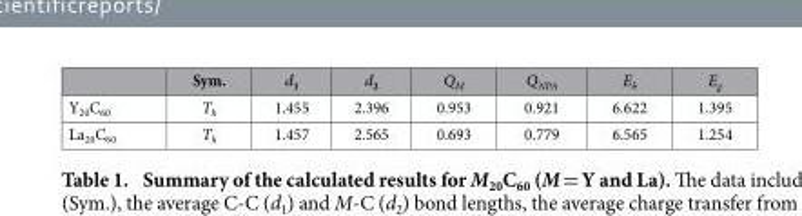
<table><thead><tr><td></td><td>Sym.</td><td>d<sub>1</sub></td><td>d<sub>2</sub></td><td>Q<sub>M</sub></td><td>Q<sub>NPA</sub></td><td>E<sub>b</sub></td><td>E<sub>g</sub></td></tr></thead><tbody><tr><td>Y<sub>20</sub>C<sub>60</sub></td><td>T<sub>h</sub></td><td>1.455</td><td>2.396</td><td>0.953</td><td>0.921</td><td>6.622</td><td>1.395</td></tr><tr><td>La<sub>20</sub>C<sub>60</sub></td><td>T<sub>h</sub></td><td>1.457</td><td>2.565</td><td>0.693</td><td>0.779</td><td>6.565</td><td>1.254</td></tr></tbody></table>